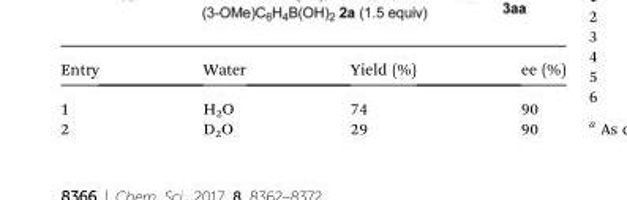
<table><thead><tr><td>Entry</td><td>Water</td><td>Yield (%)</td><td>ee (%)</td></tr></thead><tbody><tr><td>1</td><td>H<sub>2</sub>O</td><td>74</td><td>90</td></tr><tr><td>2</td><td>D<sub>2</sub>O</td><td>29</td><td>90</td></tr></tbody></table>